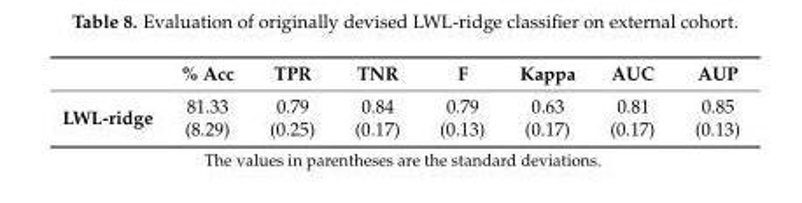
<table><thead><tr><td></td><td>% Acc</td><td>TPR</td><td>TNR</td><td>F</td><td>Kappa</td><td>AUC</td><td>AUP</td></tr></thead><tbody><tr><td>LWL-ridge</td><td>81.33 (8.29)</td><td>0.79 (0.25)</td><td>0.84 (0.17)</td><td>0.79 (0.13)</td><td>0.63 (0.17)</td><td>0.81 (0.17)</td><td>0.85 (0.13)</td></tr></tbody></table>